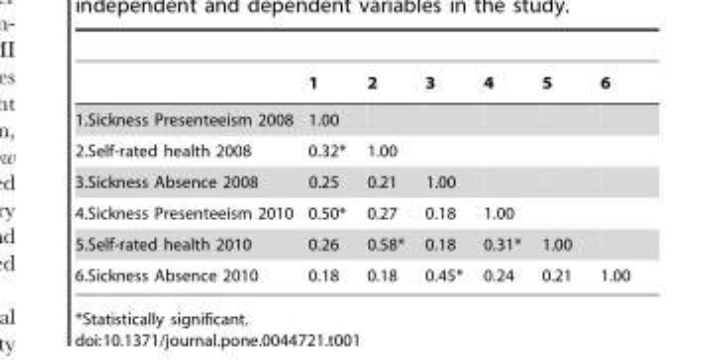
<table><thead><tr><td></td><td>1</td><td>2</td><td>3</td><td>4</td><td>5</td><td>6</td></tr></thead><tbody><tr><td>1.Sickness Presenteeism 2008</td><td>1.00</td><td></td><td></td><td></td><td></td><td></td></tr><tr><td>2.Self-rated health 2008</td><td>0.32*</td><td>1.00</td><td></td><td></td><td></td><td></td></tr><tr><td>3.Sickness Absence 2008</td><td>0.25</td><td>0.21</td><td>1.00</td><td></td><td></td><td></td></tr><tr><td>4.Sickness Presenteeism 2010</td><td>0.50*</td><td>0.27</td><td>0.18</td><td>1.00</td><td></td><td></td></tr><tr><td>5.Self-rated health 2010</td><td>0.26</td><td>0.58*</td><td>0.18</td><td>0.31*</td><td>1.00</td><td></td></tr><tr><td>6.Sickness Absence 2010</td><td>0.18</td><td>0.18</td><td>0.45*</td><td>0.24</td><td>0.21</td><td>1.00</td></tr></tbody></table>